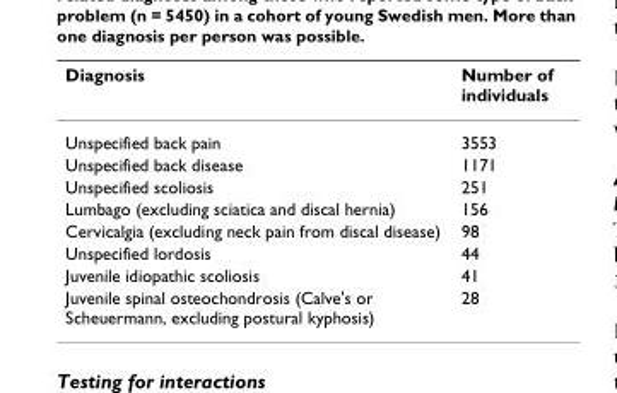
<table><thead><tr><td>Diagnosis</td><td>Number of individuals</td></tr></thead><tbody><tr><td>Unspecified back pain</td><td>3553</td></tr><tr><td>Unspecified back disease</td><td>1171</td></tr><tr><td>Unspecified scoliosis</td><td>251</td></tr><tr><td>Lumbago (excluding sciatica and discal hernia)</td><td>156</td></tr><tr><td>Cervicalgia (excluding neck pain from discal disease)</td><td>98</td></tr><tr><td>Unspecified lordosis</td><td>44</td></tr><tr><td>Juvenile idiopathic scoliosis</td><td>41</td></tr><tr><td>Juvenile spinal osteochondrosis (Calve&#x27;s or Scheuermann, excluding postural kyphosis)</td><td>28</td></tr></tbody></table>